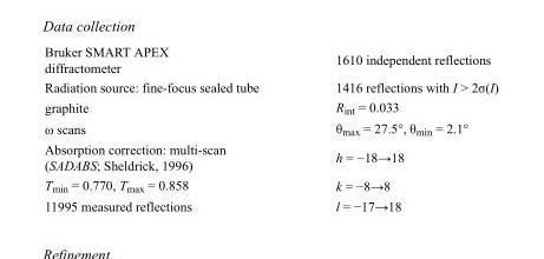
<table><tbody><tr><td>Bruker SMART APEX diffractometer</td><td>1610 independent reflections</td></tr><tr><td>Radiation source: fine-focus sealed tube</td><td>1416 reflections with I &gt; 2σ(I)</td></tr><tr><td>graphite</td><td>R<sub>int</sub> = 0.033</td></tr><tr><td>ω scans</td><td>θ<sub>max</sub> = 27.5°, θ<sub>min</sub> = 2.1°</td></tr><tr><td>Absorption correction: multi-scan (SADABS; Sheldrick, 1996)</td><td>h = −18→18</td></tr><tr><td>T<sub>min</sub> = 0.770, T<sub>max</sub> = 0.858</td><td>k = −8→8</td></tr><tr><td>11995 measured reflections</td><td>l = −17→18</td></tr></tbody></table>